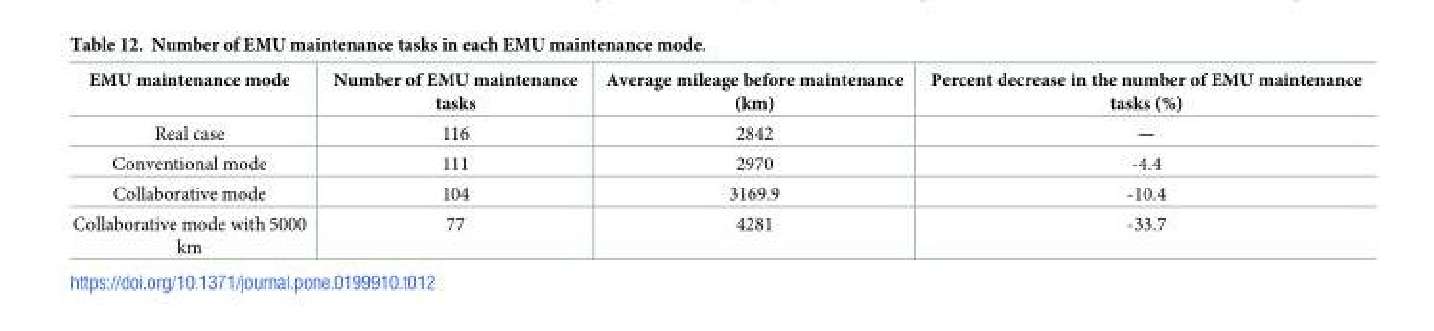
<table><thead><tr><td>EMU maintenance mode</td><td>Number of EMU maintenance tasks</td><td>Average mileage before maintenance (km)</td><td>Percent decrease in the number of EMU maintenance tasks (%)</td></tr></thead><tbody><tr><td>Real case</td><td>116</td><td>2842</td><td>—</td></tr><tr><td>Conventional mode</td><td>111</td><td>2970</td><td>-4.4</td></tr><tr><td>Collaborative mode</td><td>104</td><td>3169.9</td><td>-10.4</td></tr><tr><td>Collaborative mode with 5000 km</td><td>77</td><td>4281</td><td>-33.7</td></tr></tbody></table>